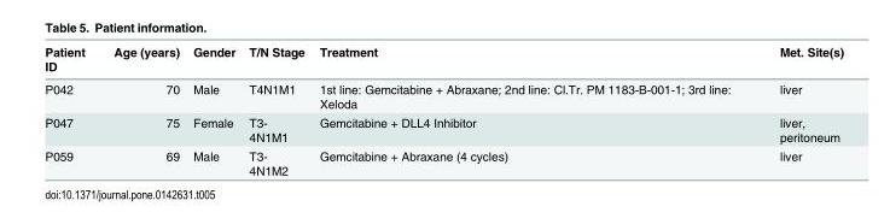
<table><thead><tr><td>Patient ID</td><td>Age (years)</td><td>Gender</td><td>T/N Stage</td><td>Treatment</td><td>Met. Site(s)</td></tr></thead><tbody><tr><td>P042</td><td>70</td><td>Male</td><td>T4N1M1</td><td>1st line: Gemcitabine + Abraxane; 2nd line: Cl.Tr. PM 1183-B-001-1; 3rd line: Xeloda</td><td>liver</td></tr><tr><td>P047</td><td>75</td><td>Female</td><td>T3- 4N1M1</td><td>Gemcitabine + DLL4 Inhibitor</td><td>liver, peritoneum</td></tr><tr><td>P059</td><td>69</td><td>Male</td><td>T3- 4N1M2</td><td>Gemcitabine + Abraxane (4 cycles)</td><td>liver</td></tr></tbody></table>